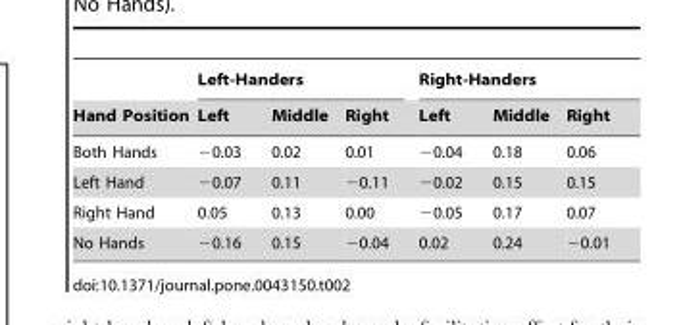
<table><thead><tr><td rowspan="2">Hand Position</td><td colspan="3">Left-Handers</td><td colspan="3">Right-Handers</td></tr><tr><td>Left</td><td>Middle</td><td>Right</td><td>Left</td><td>Middle</td><td>Right</td></tr></thead><tbody><tr><td>Both Hands</td><td>−0.03</td><td>0.02</td><td>0.01</td><td>−0.04</td><td>0.18</td><td>0.06</td></tr><tr><td>Left Hand</td><td>−0.07</td><td>0.11</td><td>−0.11</td><td>−0.02</td><td>0.15</td><td>0.15</td></tr><tr><td>Right Hand</td><td>0.05</td><td>0.13</td><td>0.00</td><td>−0.05</td><td>0.17</td><td>0.07</td></tr><tr><td>No Hands</td><td>−0.16</td><td>0.15</td><td>−0.04</td><td>0.02</td><td>0.24</td><td>−0.01</td></tr></tbody></table>